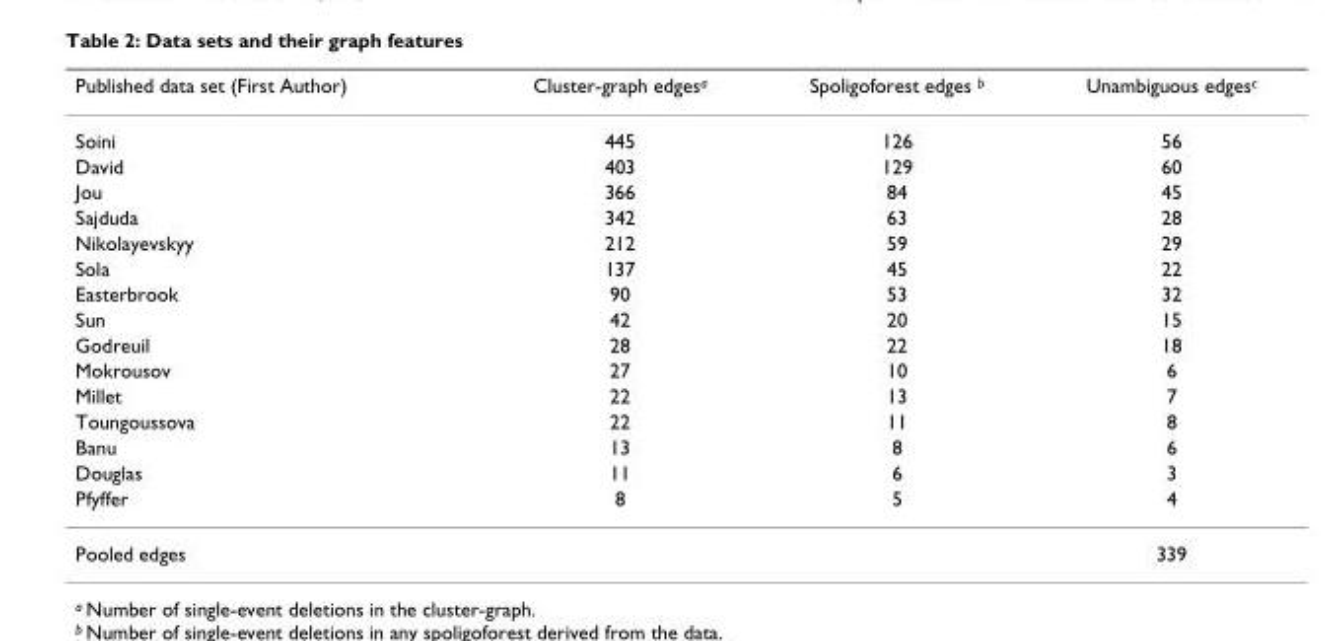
<table><thead><tr><td>Published data set (First Author)</td><td>Cluster-graph edges<sup>a</sup></td><td>Spoligoforest edges <sup>b</sup></td><td>Unambiguous edges<sup>c</sup></td></tr></thead><tbody><tr><td>Soini</td><td>445</td><td>126</td><td>56</td></tr><tr><td>David</td><td>403</td><td>129</td><td>60</td></tr><tr><td>Jou</td><td>366</td><td>84</td><td>45</td></tr><tr><td>Sajduda</td><td>342</td><td>63</td><td>28</td></tr><tr><td>Nikolayevskyy</td><td>212</td><td>59</td><td>29</td></tr><tr><td>Sola</td><td>137</td><td>45</td><td>22</td></tr><tr><td>Easterbrook</td><td>90</td><td>53</td><td>32</td></tr><tr><td>Sun</td><td>42</td><td>20</td><td>15</td></tr><tr><td>Godreuil</td><td>28</td><td>22</td><td>18</td></tr><tr><td>Mokrousov</td><td>27</td><td>10</td><td>6</td></tr><tr><td>Millet</td><td>22</td><td>13</td><td>7</td></tr><tr><td>Toungoussova</td><td>22</td><td>11</td><td>8</td></tr><tr><td>Banu</td><td>13</td><td>8</td><td>6</td></tr><tr><td>Douglas</td><td>11</td><td>6</td><td>3</td></tr><tr><td>Pfyffer</td><td>8</td><td>5</td><td>4</td></tr><tr><td>Pooled edges</td><td></td><td></td><td>339</td></tr></tbody></table>